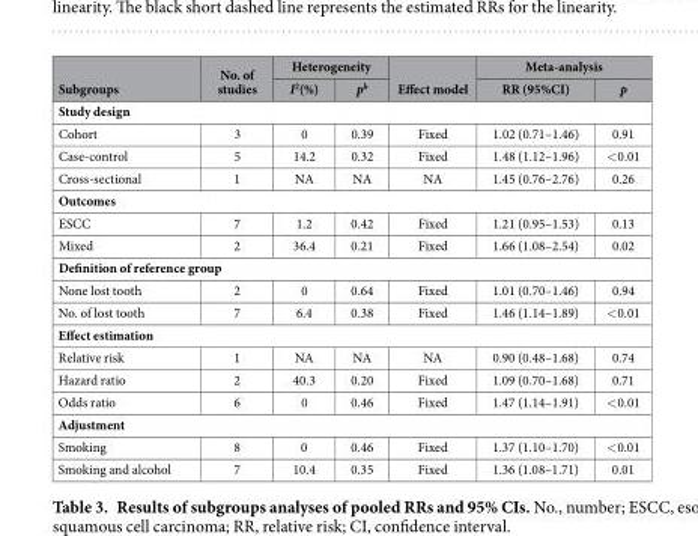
<table><thead><tr><td rowspan="2">Subgroups</td><td rowspan="2">No. of studies</td><td colspan="2">Heterogeneity</td><td rowspan="2">Effect model</td><td colspan="2">Meta-analysis</td></tr><tr><td>I<sup>2</sup>(%)</td><td>p<sup>h</sup></td><td>RR (95%CI)</td><td>p</td></tr></thead><tbody><tr><td colspan="7">Study design</td></tr><tr><td>Cohort</td><td>3</td><td>0</td><td>0.39</td><td>Fixed</td><td>1.02 (0.71–1.46)</td><td>0.91</td></tr><tr><td>Case-control</td><td>5</td><td>14.2</td><td>0.32</td><td>Fixed</td><td>1.48 (1.12–1.96)</td><td>&lt; 0.01</td></tr><tr><td>Cross-sectional</td><td>1</td><td>NA</td><td>NA</td><td>NA</td><td>1.45 (0.76–2.76)</td><td>0.26</td></tr><tr><td colspan="7">Outcomes</td></tr><tr><td>ESCC</td><td>7</td><td>1.2</td><td>0.42</td><td>Fixed</td><td>1.21 (0.95–1.53)</td><td>0.13</td></tr><tr><td>Mixed</td><td>2</td><td>36.4</td><td>0.21</td><td>Fixed</td><td>1.66 (1.08–2.54)</td><td>0.02</td></tr><tr><td colspan="7">Definition of reference group</td></tr><tr><td>None lost tooth</td><td>2</td><td>0</td><td>0.64</td><td>Fixed</td><td>1.01 (0.70–1.46)</td><td>0.94</td></tr><tr><td>No. of lost tooth</td><td>7</td><td>6.4</td><td>0.38</td><td>Fixed</td><td>1.46 (1.14–1.89)</td><td>&lt; 0.01</td></tr><tr><td colspan="7">Effect estimation</td></tr><tr><td>Relative risk</td><td>1</td><td>NA</td><td>NA</td><td>NA</td><td>0.90 (0.48–1.68)</td><td>0.74</td></tr><tr><td>Hazard ratio</td><td>2</td><td>40.3</td><td>0.20</td><td>Fixed</td><td>1.09 (0.70–1.68)</td><td>0.71</td></tr><tr><td>Odds ratio</td><td>6</td><td>0</td><td>0.46</td><td>Fixed</td><td>1.47 (1.14–1.91)</td><td>&lt; 0.01</td></tr><tr><td colspan="7">Adjustment</td></tr><tr><td>Smoking</td><td>8</td><td>0</td><td>0.46</td><td>Fixed</td><td>1.37 (1.10–1.70)</td><td>&lt; 0.01</td></tr><tr><td>Smoking and alcohol</td><td>7</td><td>10.4</td><td>0.35</td><td>Fixed</td><td>1.36 (1.08–1.71)</td><td>0.01</td></tr></tbody></table>